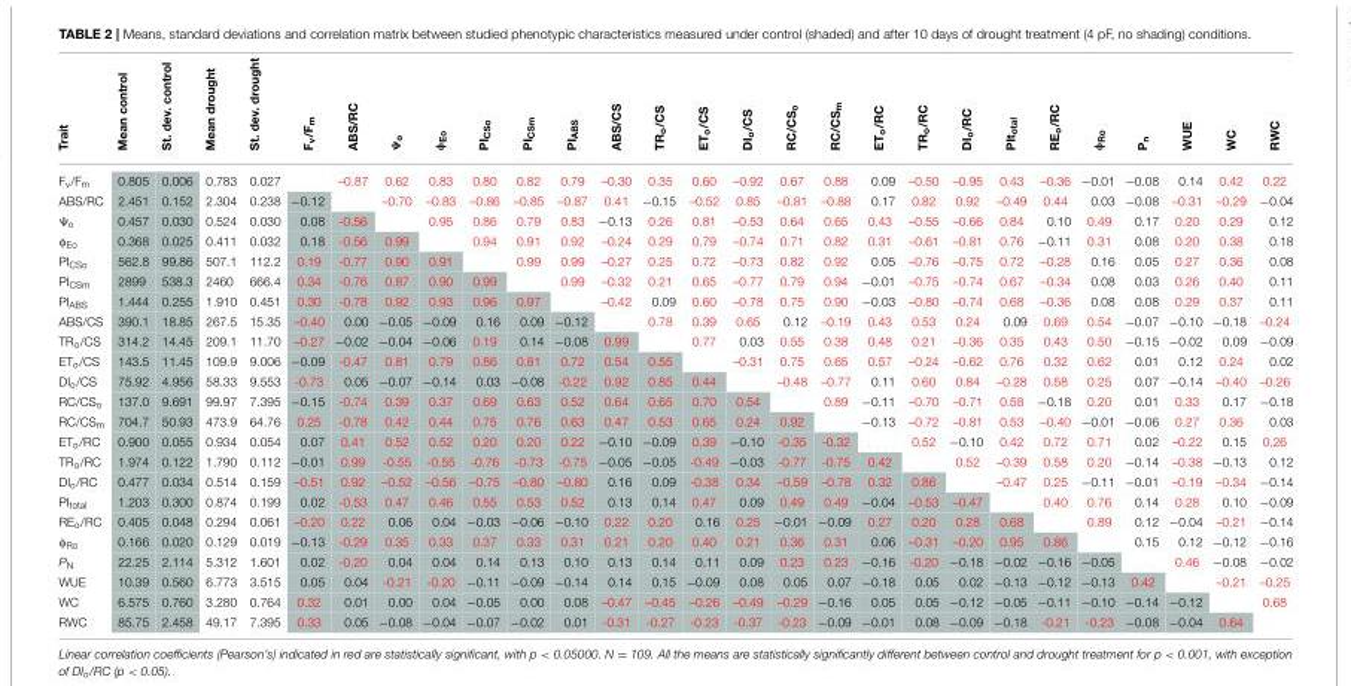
<table><thead><tr><td>Trait</td><td>Mean control</td><td>St. dev. control</td><td>Mean drought</td><td>St. dev. drought</td><td>Fv/Fm</td><td>ABS/RC</td><td>Ψ<sub>o</sub></td><td>φ<sub>Eo</sub></td><td>PICSo</td><td>PICSm</td><td>PIABS</td><td>ABS/CS</td><td>TRo/CS</td><td>ETo/CS</td><td>DIo/CS</td><td>RC/CSo</td><td>RC/CSm</td><td>ETo/RC</td><td>TRo/RC</td><td>DIo/RC</td><td>PItotal</td><td>REo/RC</td><td>φ<sub>Ro</sub></td><td>Pn</td><td>WUE</td><td>WC</td><td>RWC</td></tr></thead><tbody><tr><td>F<sub>v</sub>/F<sub>m</sub></td><td>0.805</td><td>0.006</td><td>0.783</td><td>0.027</td><td></td><td>–0.87</td><td>0.62</td><td>0.83</td><td>0.80</td><td>0.82</td><td>0.79</td><td>–0.30</td><td>0.35</td><td>0.60</td><td>–0.92</td><td>0.67</td><td>0.88</td><td>0.09</td><td>–0.50</td><td>–0.95</td><td>0.43</td><td>–0.36</td><td>−0.01</td><td>−0.08</td><td>0.14</td><td>0.42</td><td>0.22</td></tr><tr><td>ABS/RC</td><td>2.451</td><td>0.152</td><td>2.304</td><td>0.238</td><td>−0.12</td><td></td><td>–0.70</td><td>–0.83</td><td>–0.86</td><td>–0.85</td><td>–0.87</td><td>0.41</td><td>−0.15</td><td>–0.52</td><td>0.85</td><td>–0.81</td><td>–0.88</td><td>0.17</td><td>0.82</td><td>0.92</td><td>–0.49</td><td>0.44</td><td>0.03</td><td>−0.08</td><td>–0.31</td><td>–0.29</td><td>−0.04</td></tr><tr><td>Ψ<sub>o</sub></td><td>0.457</td><td>0.030</td><td>0.524</td><td>0.030</td><td>0.08</td><td>-0.56</td><td></td><td>0.95</td><td>0.86</td><td>0.79</td><td>0.83</td><td>−0.13</td><td>0.26</td><td>0.81</td><td>–0.53</td><td>0.64</td><td>0.65</td><td>0.43</td><td>–0.55</td><td>–0.66</td><td>0.84</td><td>0.10</td><td>0.49</td><td>0.17</td><td>0.20</td><td>0.29</td><td>0.12</td></tr><tr><td>φ<sub>Eo</sub></td><td>0.368</td><td>0.025</td><td>0.411</td><td>0.032</td><td>0.18</td><td>-0.56</td><td>0.99</td><td></td><td>0.94</td><td>0.91</td><td>0.92</td><td>–0.24</td><td>0.29</td><td>0.79</td><td>–0.74</td><td>0.71</td><td>0.82</td><td>0.31</td><td>–0.61</td><td>–0.81</td><td>0.76</td><td>−0.11</td><td>0.31</td><td>0.08</td><td>0.20</td><td>0.38</td><td>0.18</td></tr><tr><td>PI<sub>CSo</sub></td><td>562.8</td><td>99.86</td><td>507.1</td><td>112.2</td><td>0.19</td><td>-0.77</td><td>0.90</td><td>0.91</td><td></td><td>0.99</td><td>0.99</td><td>–0.27</td><td>0.25</td><td>0.72</td><td>–0.73</td><td>0.82</td><td>0.92</td><td>0.05</td><td>–0.76</td><td>–0.75</td><td>0.72</td><td>–0.28</td><td>0.16</td><td>0.05</td><td>0.27</td><td>0.36</td><td>0.08</td></tr><tr><td>PI<sub>CSm</sub></td><td>2899</td><td>538.3</td><td>2460</td><td>666.4</td><td>0.34</td><td>-0.76</td><td>0.87</td><td>0.90</td><td>0.99</td><td></td><td>0.99</td><td>–0.32</td><td>0.21</td><td>0.65</td><td>–0.77</td><td>0.79</td><td>0.94</td><td>−0.01</td><td>–0.75</td><td>–0.74</td><td>0.67</td><td>–0.34</td><td>0.08</td><td>0.03</td><td>0.26</td><td>0.40</td><td>0.11</td></tr><tr><td>PI<sub>ABS</sub></td><td>1.444</td><td>0.255</td><td>1.910</td><td>0.451</td><td>0.30</td><td>-0.78</td><td>0.92</td><td>0.93</td><td>0.96</td><td>0.97</td><td></td><td>–0.42</td><td>0.09</td><td>0.60</td><td>–0.78</td><td>0.75</td><td>0.90</td><td>−0.03</td><td>–0.80</td><td>–0.74</td><td>0.68</td><td>–0.36</td><td>0.08</td><td>0.08</td><td>0.29</td><td>0.37</td><td>0.11</td></tr><tr><td>ABS/CS</td><td>390.1</td><td>18.85</td><td>267.5</td><td>15.35</td><td>–0.40</td><td>0.00</td><td>−0.05</td><td>−0.09</td><td>0.16</td><td>0.09</td><td>−0.12</td><td></td><td>0.78</td><td>0.39</td><td>0.65</td><td>0.12</td><td>–0.19</td><td>0.43</td><td>0.53</td><td>0.24</td><td>0.09</td><td>0.69</td><td>0.54</td><td>−0.07</td><td>−0.10</td><td>−0.18</td><td>–0.24</td></tr><tr><td>TR<sub>o</sub>/CS</td><td>314.2</td><td>14.45</td><td>209.1</td><td>11.70</td><td>–0.27</td><td>−0.02</td><td>−0.04</td><td>−0.06</td><td>0.19</td><td>0.14</td><td>−0.08</td><td>0.99</td><td></td><td>0.77</td><td>0.03</td><td>0.55</td><td>0.38</td><td>0.48</td><td>0.21</td><td>–0.36</td><td>0.35</td><td>0.43</td><td>0.50</td><td>−0.15</td><td>−0.02</td><td>0.09</td><td>−0.09</td></tr><tr><td>ET<sub>o</sub>/CS</td><td>143.5</td><td>11.45</td><td>109.9</td><td>9.006</td><td>−0.09</td><td>-0.47</td><td>0.81</td><td>0.79</td><td>0.86</td><td>0.81</td><td>0.72</td><td>0.54</td><td>0.55</td><td></td><td>–0.31</td><td>0.75</td><td>0.65</td><td>0.57</td><td>–0.24</td><td>–0.62</td><td>0.76</td><td>0.32</td><td>0.62</td><td>0.01</td><td>0.12</td><td>0.24</td><td>0.02</td></tr><tr><td>DI<sub>o</sub>/CS</td><td>75.92</td><td>4.956</td><td>58.33</td><td>9.553</td><td>-0.73</td><td>0.05</td><td>−0.07</td><td>−0.14</td><td>0.03</td><td>−0.08</td><td>-0.22</td><td>0.92</td><td>0.85</td><td>0.44</td><td></td><td>–0.48</td><td>–0.77</td><td>0.11</td><td>0.60</td><td>0.84</td><td>–0.28</td><td>0.58</td><td>0.25</td><td>0.07</td><td>−0.14</td><td>–0.40</td><td>–0.26</td></tr><tr><td>RC/CS<sub>o</sub></td><td>137.0</td><td>9.691</td><td>99.97</td><td>7.395</td><td>−0.15</td><td>-0.74</td><td>0.39</td><td>0.37</td><td>0.69</td><td>0.63</td><td>0.52</td><td>0.64</td><td>0.65</td><td>0.70</td><td>0.54</td><td></td><td>0.89</td><td>−0.11</td><td>–0.70</td><td>–0.71</td><td>0.58</td><td>−0.18</td><td>0.20</td><td>0.01</td><td>0.33</td><td>0.17</td><td>−0.18</td></tr><tr><td>RC/CS<sub>m</sub></td><td>704.7</td><td>50.93</td><td>473.9</td><td>64.76</td><td>0.25</td><td>-0.78</td><td>0.42</td><td>0.44</td><td>0.75</td><td>0.76</td><td>0.63</td><td>0.47</td><td>0.53</td><td>0.65</td><td>0.24</td><td>0.92</td><td></td><td>−0.13</td><td>–0.72</td><td>–0.81</td><td>0.53</td><td>–0.40</td><td>−0.01</td><td>−0.06</td><td>0.27</td><td>0.36</td><td>0.03</td></tr><tr><td>ET<sub>o</sub>/RC</td><td>0.900</td><td>0.055</td><td>0.934</td><td>0.054</td><td>0.07</td><td>0.41</td><td>0.52</td><td>0.52</td><td>0.20</td><td>0.20</td><td>0.22</td><td>−0.10</td><td>−0.09</td><td>0.39</td><td>−0.10</td><td>-0.35</td><td>-0.32</td><td></td><td>0.52</td><td>−0.10</td><td>0.42</td><td>0.72</td><td>0.71</td><td>0.02</td><td>–0.22</td><td>0.15</td><td>0.26</td></tr><tr><td>TR<sub>o</sub>/RC</td><td>1.974</td><td>0.122</td><td>1.790</td><td>0.112</td><td>−0.01</td><td>0.99</td><td>-0.55</td><td>-0.55</td><td>-0.76</td><td>-0.73</td><td>-0.75</td><td>−0.05</td><td>−0.05</td><td>-0.49</td><td>−0.03</td><td>-0.77</td><td>-0.75</td><td>0.42</td><td></td><td>0.52</td><td>–0.39</td><td>0.58</td><td>0.20</td><td>−0.14</td><td>–0.38</td><td>−0.13</td><td>0.12</td></tr><tr><td>DI<sub>o</sub>/RC</td><td>0.477</td><td>0.034</td><td>0.514</td><td>0.159</td><td>–0.51</td><td>0.92</td><td>–0.52</td><td>–0.56</td><td>–0.75</td><td>–0.80</td><td>–0.80</td><td>0.16</td><td>0.09</td><td>-0.38</td><td>0.34</td><td>–0.59</td><td>–0.78</td><td>0.32</td><td>0.86</td><td></td><td>–0.47</td><td>0.25</td><td>−0.11</td><td>−0.01</td><td>–0.19</td><td>–0.34</td><td>−0.14</td></tr><tr><td>PI<sub>total</sub></td><td>1.203</td><td>0.300</td><td>0.874</td><td>0.199</td><td>0.02</td><td>-0.53</td><td>0.47</td><td>0.46</td><td>0.55</td><td>0.53</td><td>0.52</td><td>0.13</td><td>0.14</td><td>0.47</td><td>0.09</td><td>0.49</td><td>0.49</td><td>−0.04</td><td>–0.53</td><td>–0.47</td><td></td><td>0.40</td><td>0.76</td><td>0.14</td><td>0.28</td><td>0.10</td><td>−0.09</td></tr><tr><td>RE<sub>o</sub>/RC</td><td>0.405</td><td>0.048</td><td>0.294</td><td>0.061</td><td>–0.20</td><td>0.22</td><td>0.06</td><td>0.04</td><td>−0.03</td><td>−0.06</td><td>−0.10</td><td>0.22</td><td>0.20</td><td>0.16</td><td>0.25</td><td>−0.01</td><td>−0.09</td><td>0.27</td><td>0.20</td><td>0.28</td><td>0.68</td><td></td><td>0.89</td><td>0.12</td><td>−0.04</td><td>–0.21</td><td>−0.14</td></tr><tr><td>φ<sub>Ro</sub></td><td>0.166</td><td>0.020</td><td>0.129</td><td>0.019</td><td>−0.13</td><td>-0.29</td><td>0.35</td><td>0.33</td><td>0.37</td><td>0.33</td><td>0.31</td><td>0.21</td><td>0.20</td><td>0.40</td><td>0.21</td><td>0.36</td><td>0.31</td><td>0.06</td><td>–0.31</td><td>–0.20</td><td>0.95</td><td>0.86</td><td></td><td>0.15</td><td>0.12</td><td>−0.12</td><td>−0.16</td></tr><tr><td>P<sub>N</sub></td><td>22.25</td><td>2.114</td><td>5.312</td><td>1.601</td><td>0.02</td><td>-0.20</td><td>0.04</td><td>0.04</td><td>0.14</td><td>0.13</td><td>0.10</td><td>0.13</td><td>0.14</td><td>0.11</td><td>0.09</td><td>0.23</td><td>0.23</td><td>−0.16</td><td>-0.20</td><td>−0.18</td><td>−0.02</td><td>−0.16</td><td>−0.05</td><td></td><td>0.46</td><td>−0.08</td><td>−0.02</td></tr><tr><td>WUE</td><td>10.39</td><td>0.560</td><td>6.773</td><td>3.515</td><td>0.05</td><td>0.04</td><td>-0.21</td><td>-0.20</td><td>−0.11</td><td>−0.09</td><td>−0.14</td><td>0.14</td><td>0.15</td><td>−0.09</td><td>0.08</td><td>0.05</td><td>0.07</td><td>−0.18</td><td>0.05</td><td>0.02</td><td>−0.13</td><td>−0.12</td><td>−0.13</td><td>0.42</td><td></td><td>–0.21</td><td>–0.25</td></tr><tr><td>WC</td><td>6.575</td><td>0.760</td><td>3.280</td><td>0.764</td><td>0.32</td><td>0.01</td><td>0.00</td><td>0.04</td><td>−0.05</td><td>0.00</td><td>0.08</td><td>–0.47</td><td>–0.45</td><td>–0.26</td><td>–0.49</td><td>–0.29</td><td>−0.16</td><td>0.05</td><td>0.05</td><td>−0.12</td><td>−0.05</td><td>−0.11</td><td>−0.10</td><td>−0.14</td><td>−0.12</td><td></td><td>0.68</td></tr><tr><td>RWC</td><td>85.75</td><td>2.458</td><td>49.17</td><td>7.395</td><td>0.33</td><td>0.05</td><td>−0.08</td><td>−0.04</td><td>−0.07</td><td>−0.02</td><td>0.01</td><td>-0.31</td><td>-0.27</td><td>-0.23</td><td>-0.37</td><td>-0.23</td><td>−0.09</td><td>−0.01</td><td>0.08</td><td>−0.09</td><td>−0.18</td><td>-0.21</td><td>-0.23</td><td>−0.08</td><td>−0.04</td><td>0.64</td><td></td></tr></tbody></table>